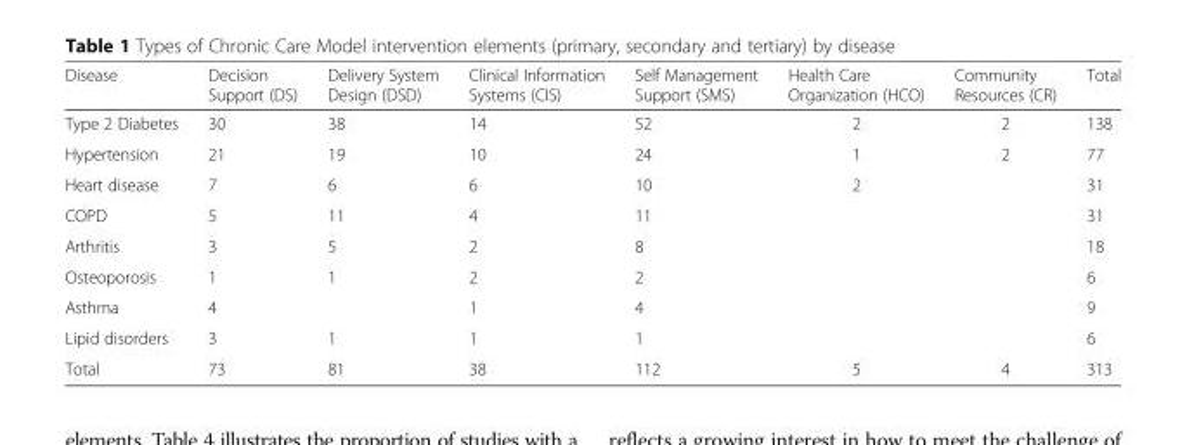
<table><thead><tr><td>Disease</td><td>Decision Support (DS)</td><td>Delivery System Design (DSD)</td><td>Clinical Information Systems (CIS)</td><td>Self Management Support (SMS)</td><td>Health Care Organization (HCO)</td><td>Community Resources (CR)</td><td>Total</td></tr></thead><tbody><tr><td>Type 2 Diabetes</td><td>30</td><td>38</td><td>14</td><td>52</td><td>2</td><td>2</td><td>138</td></tr><tr><td>Hypertension</td><td>21</td><td>19</td><td>10</td><td>24</td><td>1</td><td>2</td><td>77</td></tr><tr><td>Heart disease</td><td>7</td><td>6</td><td>6</td><td>10</td><td>2</td><td></td><td>31</td></tr><tr><td>COPD</td><td>5</td><td>11</td><td>4</td><td>11</td><td></td><td></td><td>31</td></tr><tr><td>Arthritis</td><td>3</td><td>5</td><td>2</td><td>8</td><td></td><td></td><td>18</td></tr><tr><td>Osteoporosis</td><td>1</td><td>1</td><td>2</td><td>2</td><td></td><td></td><td>6</td></tr><tr><td>Asthma</td><td>4</td><td></td><td>1</td><td>4</td><td></td><td></td><td>9</td></tr><tr><td>Lipid disorders</td><td>3</td><td>1</td><td>1</td><td>1</td><td></td><td></td><td>6</td></tr><tr><td>Total</td><td>73</td><td>81</td><td>38</td><td>112</td><td>5</td><td>4</td><td>313</td></tr></tbody></table>